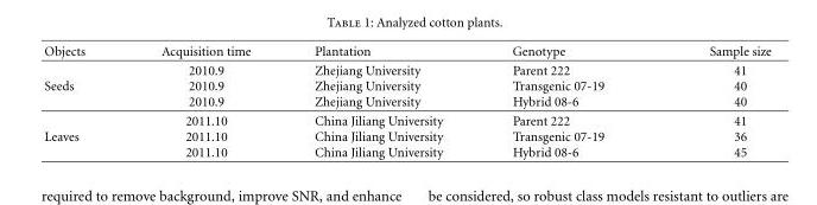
<table><thead><tr><td>Objects</td><td>Acquisition time</td><td>Plantation</td><td>Genotype</td><td>Sample size</td></tr></thead><tbody><tr><td>Seeds</td><td>2010.9 2010.9 2010.9</td><td>Zhejiang University Zhejiang University Zhejiang University</td><td>Parent 222 Transgenic 07-19 Hybrid 08-6</td><td>41 40 40</td></tr><tr><td>Leaves</td><td>2011.10 2011.10 2011.10</td><td>China Jiliang University China Jiliang University China Jiliang University</td><td>Parent 222 Transgenic 07-19 Hybrid 08-6</td><td>41 36 45</td></tr></tbody></table>